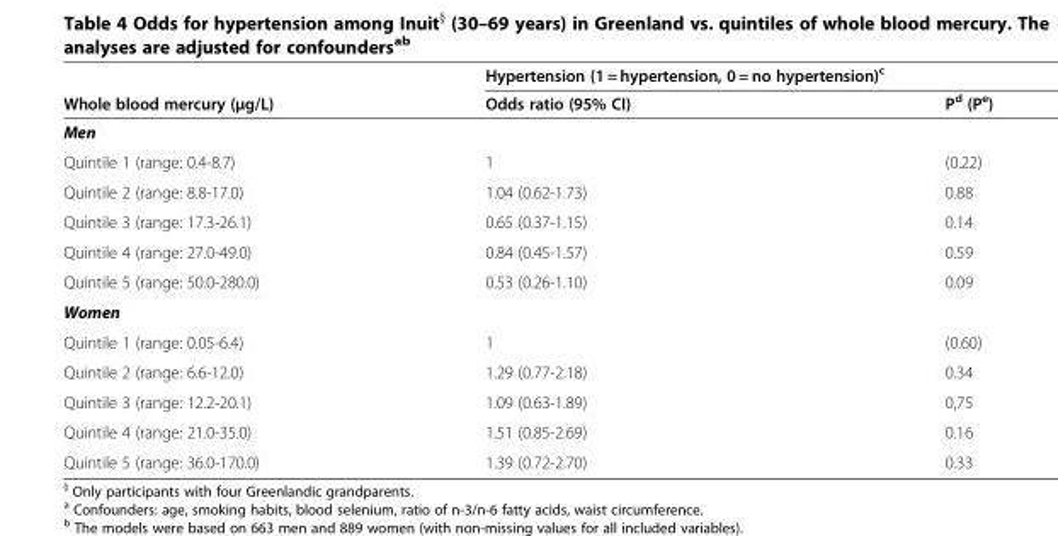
<table><thead><tr><td rowspan="2">Whole blood mercury (μg/L)</td><td colspan="2">Hypertension (1 = hypertension, 0 = no hypertension)<sup>c</sup></td></tr><tr><td>Odds ratio (95% CI)</td><td>P<sup>d</sup> (P<sup>e</sup>)</td></tr></thead><tbody><tr><td colspan="3">Men</td></tr><tr><td>Quintile 1 (range: 0.4-8.7)</td><td>1</td><td>(0.22)</td></tr><tr><td>Quintile 2 (range: 8.8-17.0)</td><td>1.04 (0.62-1.73)</td><td>0.88</td></tr><tr><td>Quintile 3 (range: 17.3-26.1)</td><td>0.65 (0.37-1.15)</td><td>0.14</td></tr><tr><td>Quintile 4 (range: 27.0-49.0)</td><td>0.84 (0.45-1.57)</td><td>0.59</td></tr><tr><td>Quintile 5 (range: 50.0-280.0)</td><td>0.53 (0.26-1.10)</td><td>0.09</td></tr><tr><td colspan="3">Women</td></tr><tr><td>Quintile 1 (range: 0.05-6.4)</td><td>1</td><td>(0.60)</td></tr><tr><td>Quintile 2 (range: 6.6-12.0)</td><td>1.29 (0.77-2.18)</td><td>0.34</td></tr><tr><td>Quintile 3 (range: 12.2-20.1)</td><td>1.09 (0.63-1.89)</td><td>0,75</td></tr><tr><td>Quintile 4 (range: 21.0-35.0)</td><td>1.51 (0.85-2.69)</td><td>0.16</td></tr><tr><td>Quintile 5 (range: 36.0-170.0)</td><td>1.39 (0.72-2.70)</td><td>0.33</td></tr></tbody></table>